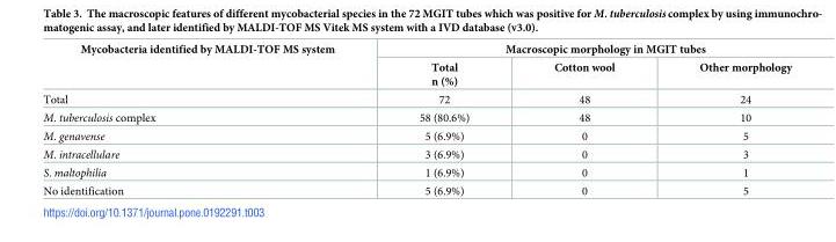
<table><thead><tr><td rowspan="2">Mycobacteria identified by MALDI-TOF MS system</td><td colspan="3">Macroscopic morphology in MGIT tubes</td></tr><tr><td>Total n (%)</td><td>Cotton wool</td><td>Other morphology</td></tr></thead><tbody><tr><td>Total</td><td>72</td><td>48</td><td>24</td></tr><tr><td>M. tuberculosis complex</td><td>58 (80.6%)</td><td>48</td><td>10</td></tr><tr><td>M. genavense</td><td>5 (6.9%)</td><td>0</td><td>5</td></tr><tr><td>M. intracellulare</td><td>3 (6.9%)</td><td>0</td><td>3</td></tr><tr><td>S. maltophilia</td><td>1 (6.9%)</td><td>0</td><td>1</td></tr><tr><td>No identification</td><td>5 (6.9%)</td><td>0</td><td>5</td></tr></tbody></table>